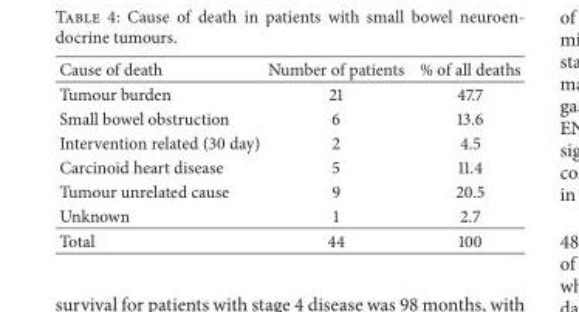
<table><thead><tr><td>Cause of death</td><td>Number of patients</td><td>% of all deaths</td></tr></thead><tbody><tr><td>Tumour burden</td><td>21</td><td>47.7</td></tr><tr><td>Small bowel obstruction</td><td>6</td><td>13.6</td></tr><tr><td>Intervention related (30 day)</td><td>2</td><td>4.5</td></tr><tr><td>Carcinoid heart disease</td><td>5</td><td>11.4</td></tr><tr><td>Tumour unrelated cause</td><td>9</td><td>20.5</td></tr><tr><td>Unknown</td><td>1</td><td>2.7</td></tr><tr><td>Total</td><td>44</td><td>100</td></tr></tbody></table>